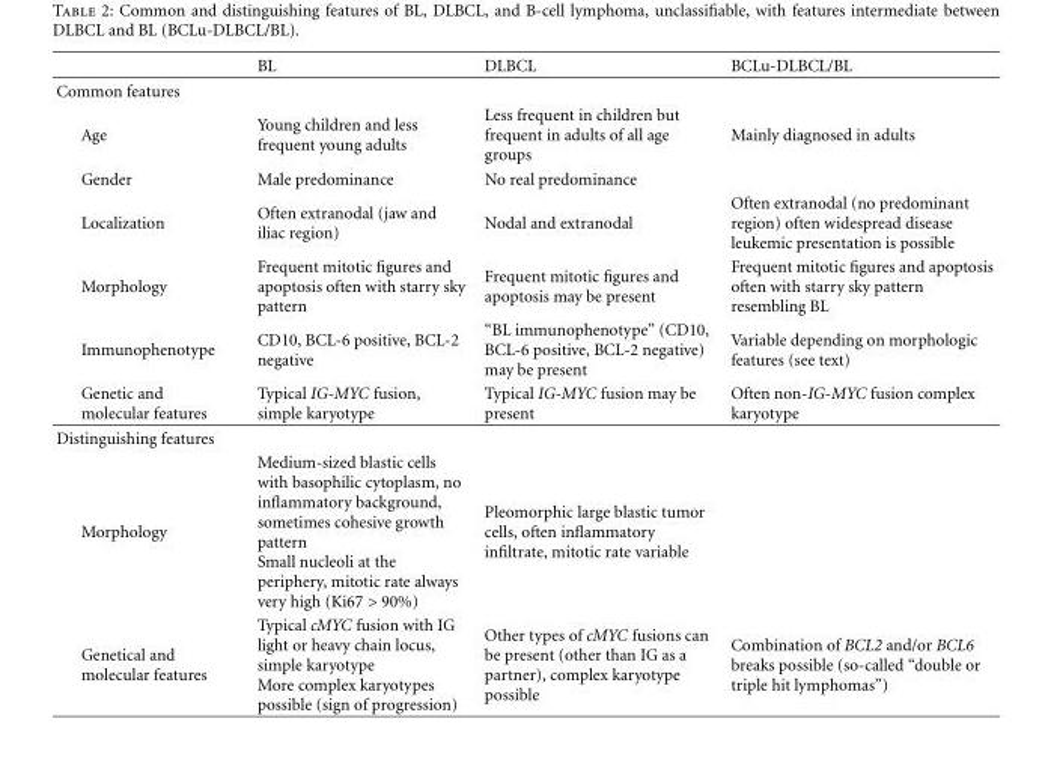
<table><thead><tr><td></td><td>BL</td><td>DLBCL</td><td>BCLu-DLBCL/BL</td></tr></thead><tbody><tr><td colspan="4">Common features</td></tr><tr><td>Age</td><td>Young children and less frequent young adults</td><td>Less frequent in children but frequent in adults of all age groups</td><td>Mainly diagnosed in adults</td></tr><tr><td>Gender</td><td>Male predominance</td><td>No real predominance</td><td></td></tr><tr><td>Localization</td><td>Often extranodal (jaw and iliac region)</td><td>Nodal and extranodal</td><td>Often extranodal (no predominant region) often widespread disease leukemic presentation is possible</td></tr><tr><td>Morphology</td><td>Frequent mitotic figures and apoptosis often with starry sky pattern</td><td>Frequent mitotic figures and apoptosis may be present</td><td>Frequent mitotic figures and apoptosis often with starry sky pattern resembling BL</td></tr><tr><td>Immunophenotype</td><td>CD10, BCL-6 positive, BCL-2 negative</td><td>“BL immunophenotype” (CD10, BCL-6 positive, BCL-2 negative) may be present</td><td>Variable depending on morphologic features (see text)</td></tr><tr><td>Genetic and molecular features</td><td>Typical IG-MYC fusion, simple karyotype</td><td>Typical IG-MYC fusion may be present</td><td>Often non-IG-MYC fusion complex karyotype</td></tr><tr><td colspan="4">Distinguishing features</td></tr><tr><td>Morphology</td><td>Medium-sized blastic cells with basophilic cytoplasm, no inflammatory background, sometimes cohesive growth pattern Small nucleoli at the periphery, mitotic rate always very high (Ki67 &gt; 90%)</td><td>Pleomorphic large blastic tumor cells, often inflammatory infiltrate, mitotic rate variable</td><td></td></tr><tr><td>Genetical and molecular features</td><td>Typical cMYC fusion with IG light or heavy chain locus, simple karyotype More complex karyotypes possible (sign of progression)</td><td>Other types of cMYC fusions can be present (other than IG as a partner), complex karyotype possible</td><td>Combination of BCL2 and/or BCL6 breaks possible (so-called “double or triple hit lymphomas”)</td></tr></tbody></table>